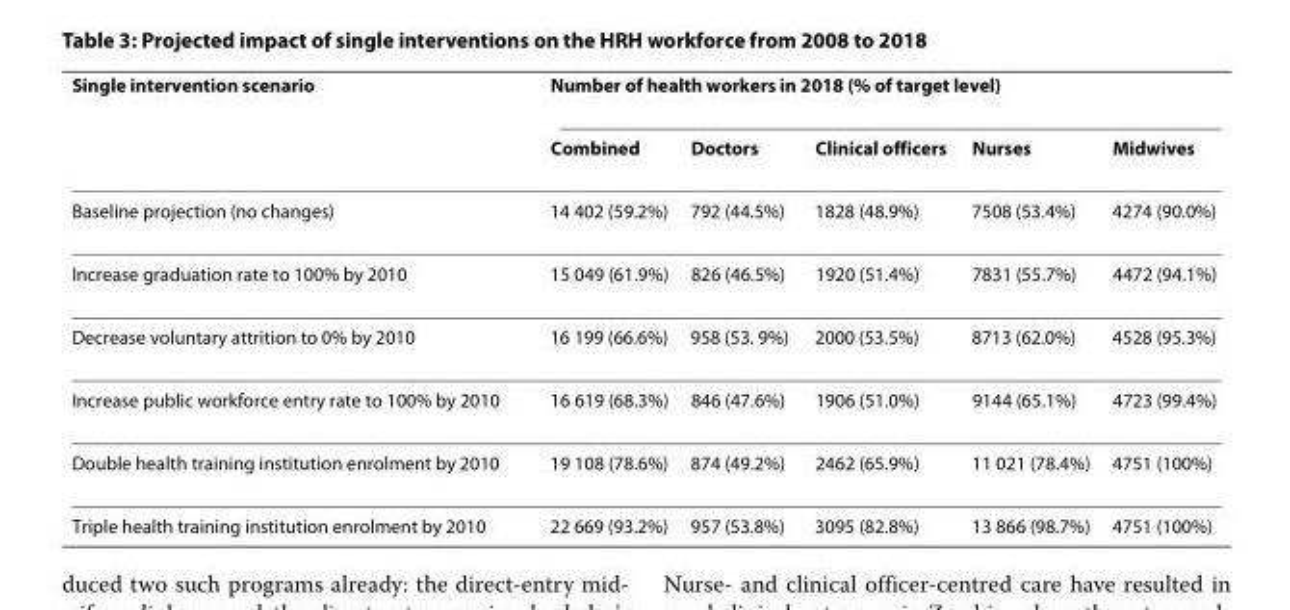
<table><thead><tr><td rowspan="2">Single intervention scenario</td><td colspan="5">Number of health workers in 2018 (% of target level)</td></tr><tr><td>Combined</td><td>Doctors</td><td>Clinical officers</td><td>Nurses</td><td>Midwives</td></tr></thead><tbody><tr><td>Baseline projection (no changes)</td><td>14 402 (59.2%)</td><td>792 (44.5%)</td><td>1828 (48.9%)</td><td>7508 (53.4%)</td><td>4274 (90.0%)</td></tr><tr><td>Increase graduation rate to 100% by 2010</td><td>15 049 (61.9%)</td><td>826 (46.5%)</td><td>1920 (51.4%)</td><td>7831 (55.7%)</td><td>4472 (94.1%)</td></tr><tr><td>Decrease voluntary attrition to 0% by 2010</td><td>16 199 (66.6%)</td><td>958 (53. 9%)</td><td>2000 (53.5%)</td><td>8713 (62.0%)</td><td>4528 (95.3%)</td></tr><tr><td>Increase public workforce entry rate to 100% by 2010</td><td>16 619 (68.3%)</td><td>846 (47.6%)</td><td>1906 (51.0%)</td><td>9144 (65.1%)</td><td>4723 (99.4%)</td></tr><tr><td>Double health training institution enrolment by 2010</td><td>19 108 (78.6%)</td><td>874 (49.2%)</td><td>2462 (65.9%)</td><td>11 021 (78.4%)</td><td>4751 (100%)</td></tr><tr><td>Triple health training institution enrolment by 2010</td><td>22 669 (93.2%)</td><td>957 (53.8%)</td><td>3095 (82.8%)</td><td>13 866 (98.7%)</td><td>4751 (100%)</td></tr></tbody></table>